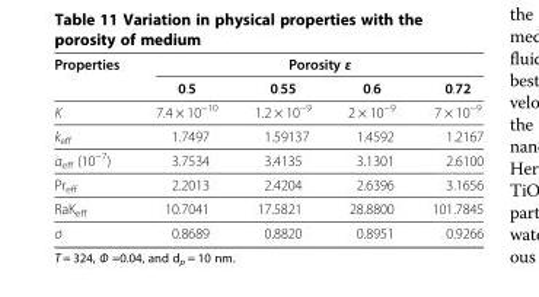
<table><thead><tr><td rowspan="2">Properties</td><td colspan="4">Porosity ε</td></tr><tr><td>0.5</td><td>0.55</td><td>0.6</td><td>0.72</td></tr></thead><tbody><tr><td>K</td><td>7.4 × 10<sup>−10</sup></td><td>1.2 × 10<sup>−9</sup></td><td>2 × 10<sup>−9</sup></td><td>7 × 10<sup>−9</sup></td></tr><tr><td>k<sub>eff</sub></td><td>1.7497</td><td>1.59137</td><td>1.4592</td><td>1.2167</td></tr><tr><td>α<sub>eff</sub> (10<sup>−7</sup>)</td><td>3.7534</td><td>3.4135</td><td>3.1301</td><td>2.6100</td></tr><tr><td>Pr<sub>eff</sub></td><td>2.2013</td><td>2.4204</td><td>2.6396</td><td>3.1656</td></tr><tr><td>RaK<sub>eff</sub></td><td>10.7041</td><td>17.5821</td><td>28.8800</td><td>101.7845</td></tr><tr><td>σ</td><td>0.8689</td><td>0.8820</td><td>0.8951</td><td>0.9266</td></tr></tbody></table>